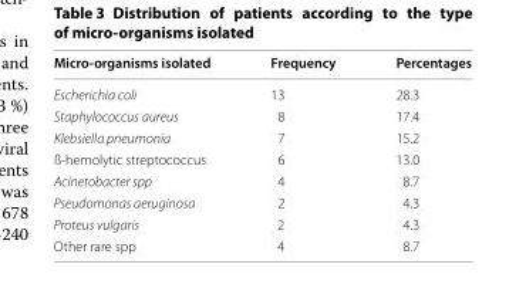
<table><thead><tr><td>Micro-organisms isolated</td><td>Frequency</td><td>Percentages</td></tr></thead><tbody><tr><td>Escherichia coli</td><td>13</td><td>28.3</td></tr><tr><td>Staphylococcus aureus</td><td>8</td><td>17.4</td></tr><tr><td>Klebsiella pneumonia</td><td>7</td><td>15.2</td></tr><tr><td>ß-hemolytic streptococcus</td><td>6</td><td>13.0</td></tr><tr><td>Acinetobacter spp</td><td>4</td><td>8.7</td></tr><tr><td>Pseudomonas aeruginosa</td><td>2</td><td>4.3</td></tr><tr><td>Proteus vulgaris</td><td>2</td><td>4.3</td></tr><tr><td>Other rare spp</td><td>4</td><td>8.7</td></tr></tbody></table>